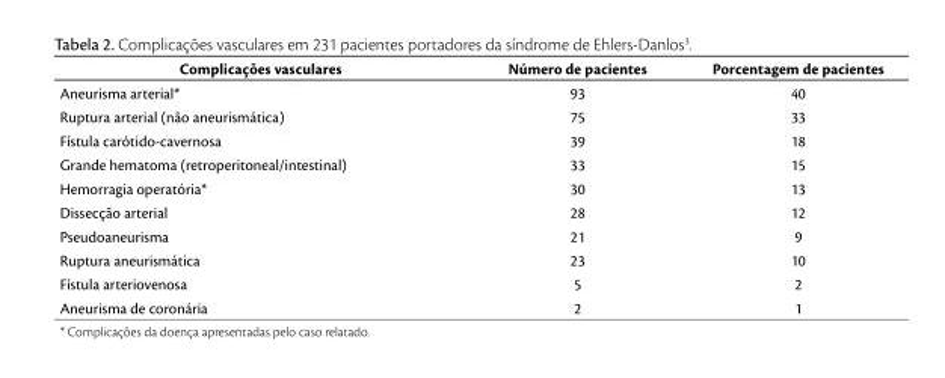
<table><thead><tr><td>Complicações vasculares</td><td>Número de pacientes</td><td>Porcentagem de pacientes</td></tr></thead><tbody><tr><td>Aneurisma arterial*</td><td>93</td><td>40</td></tr><tr><td>Ruptura arterial (não aneurismática)</td><td>75</td><td>33</td></tr><tr><td>Fístula carótido-cavernosa</td><td>39</td><td>18</td></tr><tr><td>Grande hematoma (retroperitoneal/intestinal)</td><td>33</td><td>15</td></tr><tr><td>Hemorragia operatória*</td><td>30</td><td>13</td></tr><tr><td>Dissecção arterial</td><td>28</td><td>12</td></tr><tr><td>Pseudoaneurisma</td><td>21</td><td>9</td></tr><tr><td>Ruptura aneurismática</td><td>23</td><td>10</td></tr><tr><td>Fístula arteriovenosa</td><td>5</td><td>2</td></tr><tr><td>Aneurisma de coronária</td><td>2</td><td>1</td></tr></tbody></table>